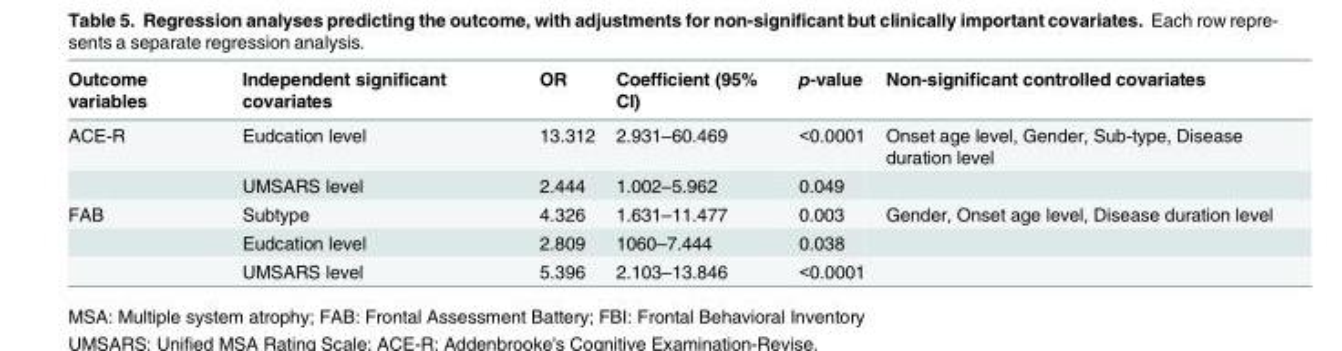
<table><thead><tr><td>Outcome variables</td><td>Independent significant covariates</td><td>OR</td><td>Coefficient (95% CI)</td><td>p-value</td><td>Non-significant controlled covariates</td></tr></thead><tbody><tr><td rowspan="2">ACE-R</td><td>Eudcation level</td><td>13.312</td><td>2.931–60.469</td><td>&lt;0.0001</td><td>Onset age level, Gender, Sub-type, Disease duration level</td></tr><tr><td>UMSARS level</td><td>2.444</td><td>1.002–5.962</td><td>0.049</td><td></td></tr><tr><td rowspan="3">FAB</td><td>Subtype</td><td>4.326</td><td>1.631–11.477</td><td>0.003</td><td>Gender, Onset age level, Disease duration level</td></tr><tr><td>Eudcation level</td><td>2.809</td><td>1060–7.444</td><td>0.038</td><td></td></tr><tr><td>UMSARS level</td><td>5.396</td><td>2.103–13.846</td><td>&lt;0.0001</td><td></td></tr></tbody></table>